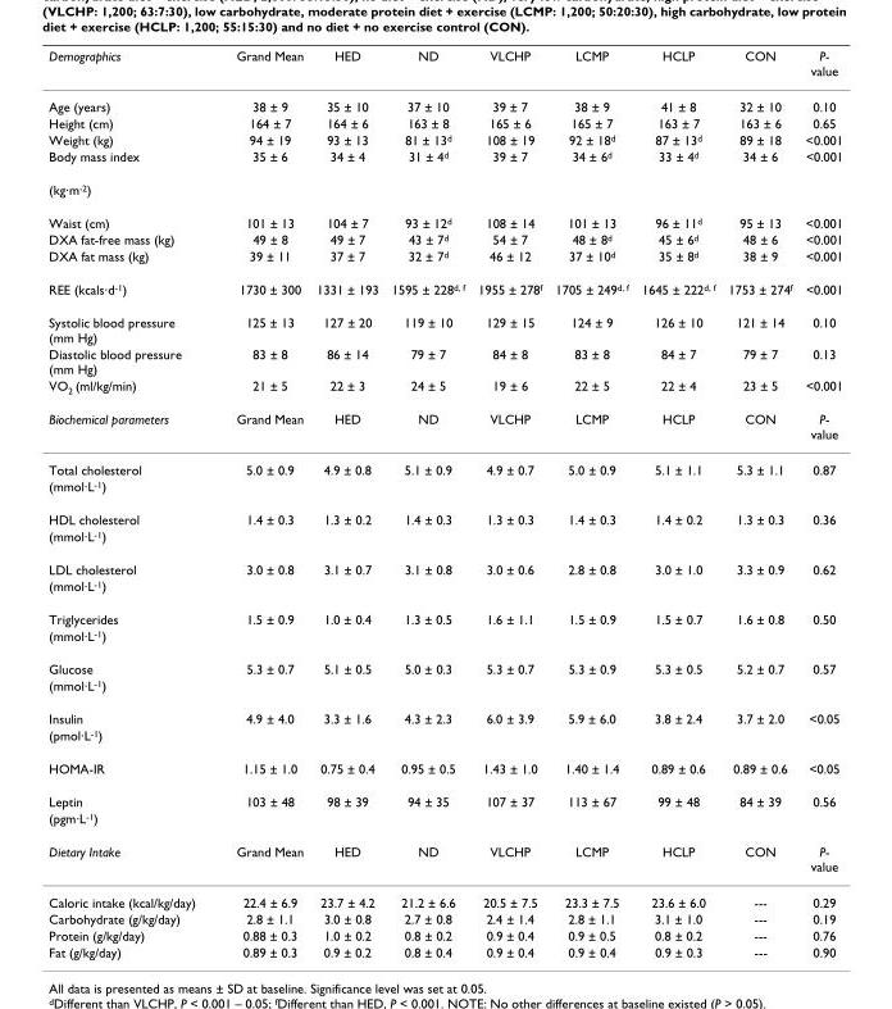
<table><thead><tr><td>Demographics</td><td>Grand Mean</td><td>HED</td><td>ND</td><td>VLCHP</td><td>LCMP</td><td>HCLP</td><td>CON</td><td>P- value</td></tr></thead><tbody><tr><td>Age (years)</td><td>38 ± 9</td><td>35 ± 10</td><td>37 ± 10</td><td>39 ± 7</td><td>38 ± 9</td><td>41 ± 8</td><td>32 ± 10</td><td>0.10</td></tr><tr><td>Height (cm)</td><td>164 ± 7</td><td>164 ± 6</td><td>163 ± 8</td><td>165 ± 6</td><td>165 ± 7</td><td>163 ± 7</td><td>163 ± 6</td><td>0.65</td></tr><tr><td>Weight (kg)</td><td>94 ± 19</td><td>93 ± 13</td><td>81 ± 13<sup>d</sup></td><td>108 ± 19</td><td>92 ± 18<sup>d</sup></td><td>87 ± 13<sup>d</sup></td><td>89 ± 18</td><td>&lt;0.001</td></tr><tr><td>Body mass index</td><td>35 ± 6</td><td>34 ± 4</td><td>31 ± 4<sup>d</sup></td><td>39 ± 7</td><td>34 ± 6<sup>d</sup></td><td>33 ± 4<sup>d</sup></td><td>34 ± 6</td><td>&lt;0.001</td></tr><tr><td colspan="9">(kg·m<sup>-2</sup>)</td></tr><tr><td>Waist (cm)</td><td>101 ± 13</td><td>104 ± 7</td><td>93 ± 12<sup>d</sup></td><td>108 ± 14</td><td>101 ± 13</td><td>96 ± 11<sup>d</sup></td><td>95 ± 13</td><td>&lt;0.001</td></tr><tr><td>DXA fat-free mass (kg)</td><td>49 ± 8</td><td>49 ± 7</td><td>43 ± 7<sup>d</sup></td><td>54 ± 7</td><td>48 ± 8<sup>d</sup></td><td>45 ± 6<sup>d</sup></td><td>48 ± 6</td><td>&lt;0.001</td></tr><tr><td>DXA fat mass (kg)</td><td>39 ± 11</td><td>37 ± 7</td><td>32 ± 7<sup>d</sup></td><td>46 ± 12</td><td>37 ± 10<sup>d</sup></td><td>35 ± 8<sup>d</sup></td><td>38 ± 9</td><td>&lt;0.001</td></tr><tr><td>REE (kcals·d<sup>-1</sup>)</td><td>1730 ± 300</td><td>1331 ± 193</td><td>1595 ± 228<sup>d, f</sup></td><td>1955 ± 278<sup>f</sup></td><td>1705 ± 249<sup>d, f</sup></td><td>1645 ± 222<sup>d, f</sup></td><td>1753 ± 274<sup>f</sup></td><td>&lt;0.001</td></tr><tr><td>Systolic blood pressure (mm Hg)</td><td>125 ± 13</td><td>127 ± 20</td><td>119 ± 10</td><td>129 ± 15</td><td>124 ± 9</td><td>126 ± 10</td><td>121 ± 14</td><td>0.10</td></tr><tr><td>Diastolic blood pressure (mm Hg)</td><td>83 ± 8</td><td>86 ± 14</td><td>79 ± 7</td><td>84 ± 8</td><td>83 ± 8</td><td>84 ± 7</td><td>79 ± 7</td><td>0.13</td></tr><tr><td>VO<sub>2</sub> (ml/kg/min)</td><td>21 ± 5</td><td>22 ± 3</td><td>24 ± 5</td><td>19 ± 6</td><td>22 ± 5</td><td>22 ± 4</td><td>23 ± 5</td><td>&lt;0.001</td></tr><tr><td>Biochemical parameters</td><td>Grand Mean</td><td>HED</td><td>ND</td><td>VLCHP</td><td>LCMP</td><td>HCLP</td><td>CON</td><td>P- value</td></tr><tr><td>Total cholesterol</td><td>5.0 ± 0.9</td><td>4.9 ± 0.8</td><td>5.1 ± 0.9</td><td>4.9 ± 0.7</td><td>5.0 ± 0.9</td><td>5.1 ± 1.1</td><td>5.3 ± 1.1</td><td>0.87</td></tr><tr><td colspan="9">(mmol·L<sup>-1</sup>)</td></tr><tr><td>HDL cholesterol</td><td>1.4 ± 0.3</td><td>1.3 ± 0.2</td><td>1.4 ± 0.3</td><td>1.3 ± 0.3</td><td>1.4 ± 0.3</td><td>1.4 ± 0.2</td><td>1.3 ± 0.3</td><td>0.36</td></tr><tr><td colspan="9">(mmol·L<sup>-1</sup>)</td></tr><tr><td>LDL cholesterol</td><td>3.0 ± 0.8</td><td>3.1 ± 0.7</td><td>3.1 ± 0.8</td><td>3.0 ± 0.6</td><td>2.8 ± 0.8</td><td>3.0 ± 1.0</td><td>3.3 ± 0.9</td><td>0.62</td></tr><tr><td colspan="9">(mmol·L<sup>-1</sup>)</td></tr><tr><td>Triglycerides</td><td>1.5 ± 0.9</td><td>1.0 ± 0.4</td><td>1.3 ± 0.5</td><td>1.6 ± 1.1</td><td>1.5 ± 0.9</td><td>1.5 ± 0.7</td><td>1.6 ± 0.8</td><td>0.50</td></tr><tr><td colspan="9">(mmol·L<sup>-1</sup>)</td></tr><tr><td>Glucose</td><td>5.3 ± 0.7</td><td>5.1 ± 0.5</td><td>5.0 ± 0.3</td><td>5.3 ± 0.7</td><td>5.3 ± 0.9</td><td>5.3 ± 0.5</td><td>5.2 ± 0.7</td><td>0.57</td></tr><tr><td colspan="9">(mmol·L<sup>-1</sup>)</td></tr><tr><td>Insulin</td><td>4.9 ± 4.0</td><td>3.3 ± 1.6</td><td>4.3 ± 2.3</td><td>6.0 ± 3.9</td><td>5.9 ± 6.0</td><td>3.8 ± 2.4</td><td>3.7 ± 2.0</td><td>&lt;0.05</td></tr><tr><td colspan="9">(pmol·L<sup>-1</sup>)</td></tr><tr><td>HOMA-IR</td><td>1.15 ± 1.0</td><td>0.75 ± 0.4</td><td>0.95 ± 0.5</td><td>1.43 ± 1.0</td><td>1.40 ± 1.4</td><td>0.89 ± 0.6</td><td>0.89 ± 0.6</td><td>&lt;0.05</td></tr><tr><td>Leptin</td><td>103 ± 48</td><td>98 ± 39</td><td>94 ± 35</td><td>107 ± 37</td><td>113 ± 67</td><td>99 ± 48</td><td>84 ± 39</td><td>0.56</td></tr><tr><td colspan="9">(pgm·L<sup>-1</sup>)</td></tr><tr><td>Dietary Intake</td><td>Grand Mean</td><td>HED</td><td>ND</td><td>VLCHP</td><td>LCMP</td><td>HCLP</td><td>CON</td><td>P- value</td></tr><tr><td>Caloric intake (kcal/kg/day)</td><td>22.4 ± 6.9</td><td>23.7 ± 4.2</td><td>21.2 ± 6.6</td><td>20.5 ± 7.5</td><td>23.3 ± 7.5</td><td>23.6 ± 6.0</td><td>---</td><td>0.29</td></tr><tr><td>Carbohydrate (g/kg/day)</td><td>2.8 ± 1.1</td><td>3.0 ± 0.8</td><td>2.7 ± 0.8</td><td>2.4 ± 1.4</td><td>2.8 ± 1.1</td><td>3.1 ± 1.0</td><td>---</td><td>0.19</td></tr><tr><td>Protein (g/kg/day)</td><td>0.88 ± 0.3</td><td>1.0 ± 0.2</td><td>0.8 ± 0.2</td><td>0.9 ± 0.4</td><td>0.9 ± 0.5</td><td>0.8 ± 0.2</td><td>---</td><td>0.76</td></tr><tr><td>Fat (g/kg/day)</td><td>0.89 ± 0.3</td><td>0.9 ± 0.2</td><td>0.8 ± 0.4</td><td>0.9 ± 0.4</td><td>0.9 ± 0.4</td><td>0.9 ± 0.3</td><td>---</td><td>0.90</td></tr></tbody></table>